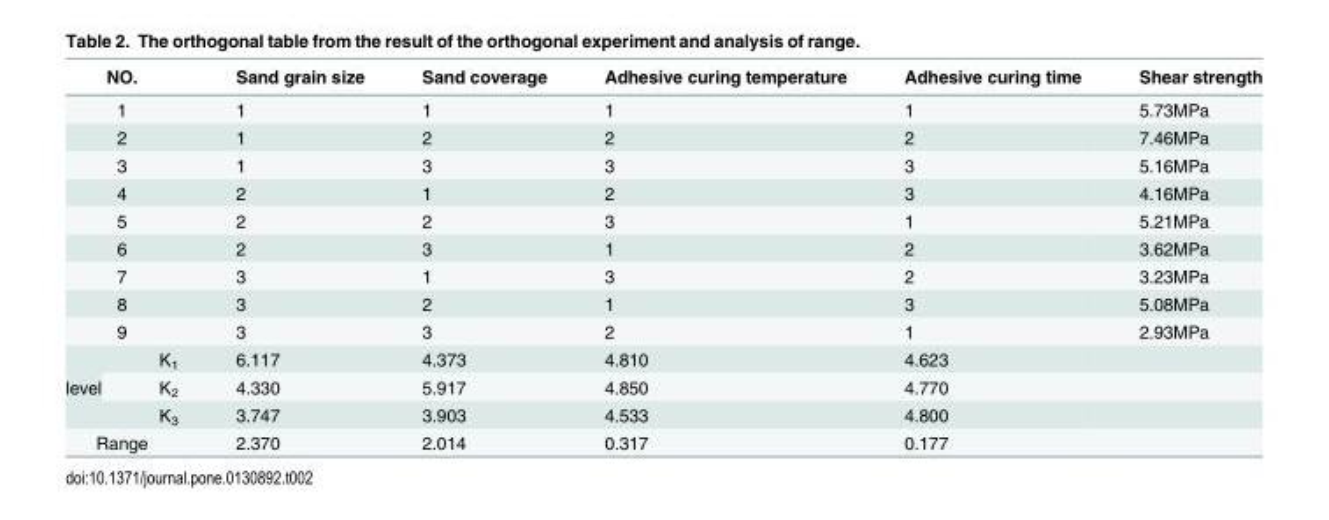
<table><thead><tr><td colspan="2">NO.</td><td>Sand grain size</td><td>Sand coverage</td><td>Adhesive curing temperature</td><td>Adhesive curing time</td><td>Shear strength</td></tr></thead><tbody><tr><td colspan="2">1</td><td>1</td><td>1</td><td>1</td><td>1</td><td>5.73MPa</td></tr><tr><td colspan="2">2</td><td>1</td><td>2</td><td>2</td><td>2</td><td>7.46MPa</td></tr><tr><td colspan="2">3</td><td>1</td><td>3</td><td>3</td><td>3</td><td>5.16MPa</td></tr><tr><td colspan="2">4</td><td>2</td><td>1</td><td>2</td><td>3</td><td>4.16MPa</td></tr><tr><td colspan="2">5</td><td>2</td><td>2</td><td>3</td><td>1</td><td>5.21MPa</td></tr><tr><td colspan="2">6</td><td>2</td><td>3</td><td>1</td><td>2</td><td>3.62MPa</td></tr><tr><td colspan="2">7</td><td>3</td><td>1</td><td>3</td><td>2</td><td>3.23MPa</td></tr><tr><td colspan="2">8</td><td>3</td><td>2</td><td>1</td><td>3</td><td>5.08MPa</td></tr><tr><td colspan="2">9</td><td>3</td><td>3</td><td>2</td><td>1</td><td>2.93MPa</td></tr><tr><td rowspan="3">level</td><td>K<sub>1</sub></td><td>6.117</td><td>4.373</td><td>4.810</td><td>4.623</td><td></td></tr><tr><td>K<sub>2</sub></td><td>4.330</td><td>5.917</td><td>4.850</td><td>4.770</td><td></td></tr><tr><td>K<sub>3</sub></td><td>3.747</td><td>3.903</td><td>4.533</td><td>4.800</td><td></td></tr><tr><td colspan="2">Range</td><td>2.370</td><td>2.014</td><td>0.317</td><td>0.177</td><td></td></tr></tbody></table>